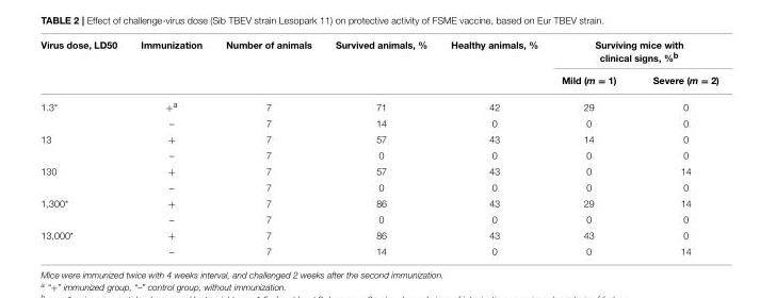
<table><thead><tr><td rowspan="2">Virus dose, LD50</td><td rowspan="2">Immunization</td><td rowspan="2">Number of animals</td><td rowspan="2">Survived animals, %</td><td rowspan="2">Healthy animals, %</td><td colspan="2">Surviving mice with clinical signs, %<sup>b</sup></td></tr><tr><td>Mild (m = 1)</td><td>Severe (m = 2)</td></tr></thead><tbody><tr><td rowspan="2">1.3*</td><td>+<sup>a</sup></td><td>7</td><td>71</td><td>42</td><td>29</td><td>0</td></tr><tr><td>–</td><td>7</td><td>14</td><td>0</td><td>0</td><td>0</td></tr><tr><td rowspan="2">13</td><td>+</td><td>7</td><td>57</td><td>43</td><td>14</td><td>0</td></tr><tr><td>–</td><td>7</td><td>0</td><td>0</td><td>0</td><td>0</td></tr><tr><td rowspan="2">130</td><td>+</td><td>7</td><td>57</td><td>43</td><td>0</td><td>14</td></tr><tr><td>–</td><td>7</td><td>0</td><td>0</td><td>0</td><td>0</td></tr><tr><td rowspan="2">1,300*</td><td>+</td><td>7</td><td>86</td><td>43</td><td>29</td><td>14</td></tr><tr><td>–</td><td>7</td><td>0</td><td>0</td><td>0</td><td>0</td></tr><tr><td rowspan="2">13,000*</td><td>+</td><td>7</td><td>86</td><td>43</td><td>43</td><td>0</td></tr><tr><td>–</td><td>7</td><td>14</td><td>0</td><td>0</td><td>14</td></tr></tbody></table>